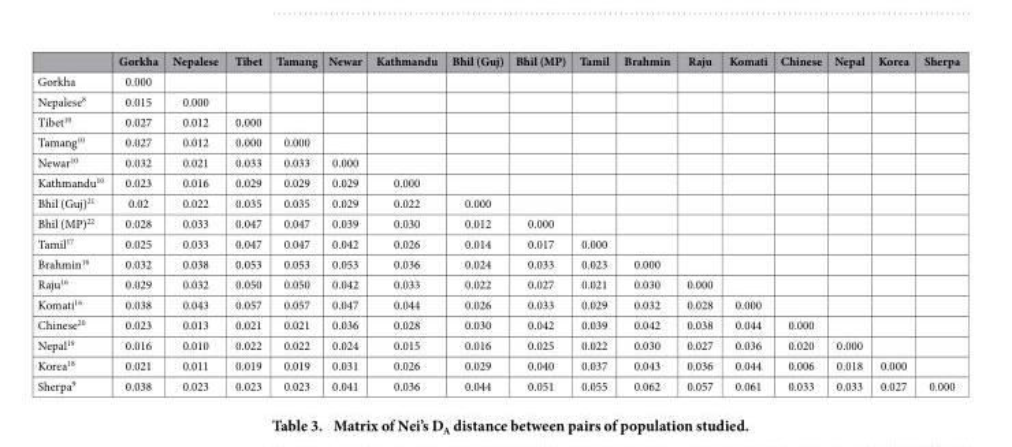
<table><thead><tr><td></td><td>Gorkha</td><td>Nepalese</td><td>Tibet</td><td>Tamang</td><td>Newar</td><td>Kathmandu</td><td>Bhil (Guj)</td><td>Bhil (MP)</td><td>Tamil</td><td>Brahmin</td><td>Raju</td><td>Komati</td><td>Chinese</td><td>Nepal</td><td>Korea</td><td>Sherpa</td></tr></thead><tbody><tr><td>Gorkha</td><td>0.000</td><td></td><td></td><td></td><td></td><td></td><td></td><td></td><td></td><td></td><td></td><td></td><td></td><td></td><td></td><td></td></tr><tr><td>Nepalese<sup>8</sup></td><td>0.015</td><td>0.000</td><td></td><td></td><td></td><td></td><td></td><td></td><td></td><td></td><td></td><td></td><td></td><td></td><td></td><td></td></tr><tr><td>Tibet<sup>10</sup></td><td>0.027</td><td>0.012</td><td>0.000</td><td></td><td></td><td></td><td></td><td></td><td></td><td></td><td></td><td></td><td></td><td></td><td></td><td></td></tr><tr><td>Tamang<sup>10</sup></td><td>0.027</td><td>0.012</td><td>0.000</td><td>0.000</td><td></td><td></td><td></td><td></td><td></td><td></td><td></td><td></td><td></td><td></td><td></td><td></td></tr><tr><td>Newar<sup>10</sup></td><td>0.032</td><td>0.021</td><td>0.033</td><td>0.033</td><td>0.000</td><td></td><td></td><td></td><td></td><td></td><td></td><td></td><td></td><td></td><td></td><td></td></tr><tr><td>Kathmandu<sup>10</sup></td><td>0.023</td><td>0.016</td><td>0.029</td><td>0.029</td><td>0.029</td><td>0.000</td><td></td><td></td><td></td><td></td><td></td><td></td><td></td><td></td><td></td><td></td></tr><tr><td>Bhil (Guj)<sup>21</sup></td><td>0.02</td><td>0.022</td><td>0.035</td><td>0.035</td><td>0.029</td><td>0.022</td><td>0.000</td><td></td><td></td><td></td><td></td><td></td><td></td><td></td><td></td><td></td></tr><tr><td>Bhil (MP)<sup>22</sup></td><td>0.028</td><td>0.033</td><td>0.047</td><td>0.047</td><td>0.039</td><td>0.030</td><td>0.012</td><td>0.000</td><td></td><td></td><td></td><td></td><td></td><td></td><td></td><td></td></tr><tr><td>Tamil<sup>17</sup></td><td>0.025</td><td>0.033</td><td>0.047</td><td>0.047</td><td>0.042</td><td>0.026</td><td>0.014</td><td>0.017</td><td>0.000</td><td></td><td></td><td></td><td></td><td></td><td></td><td></td></tr><tr><td>Brahmin<sup>16</sup></td><td>0.032</td><td>0.038</td><td>0.053</td><td>0.053</td><td>0.053</td><td>0.036</td><td>0.024</td><td>0.033</td><td>0.023</td><td>0.000</td><td></td><td></td><td></td><td></td><td></td><td></td></tr><tr><td>Raju<sup>16</sup></td><td>0.029</td><td>0.032</td><td>0.050</td><td>0.050</td><td>0.042</td><td>0.033</td><td>0.022</td><td>0.027</td><td>0.021</td><td>0.030</td><td>0.000</td><td></td><td></td><td></td><td></td><td></td></tr><tr><td>Komati<sup>16</sup></td><td>0.038</td><td>0.043</td><td>0.057</td><td>0.057</td><td>0.047</td><td>0.044</td><td>0.026</td><td>0.033</td><td>0.029</td><td>0.032</td><td>0.028</td><td>0.000</td><td></td><td></td><td></td><td></td></tr><tr><td>Chinese<sup>20</sup></td><td>0.023</td><td>0.013</td><td>0.021</td><td>0.021</td><td>0.036</td><td>0.028</td><td>0.030</td><td>0.042</td><td>0.039</td><td>0.042</td><td>0.038</td><td>0.044</td><td>0.000</td><td></td><td></td><td></td></tr><tr><td>Nepal<sup>19</sup></td><td>0.016</td><td>0.010</td><td>0.022</td><td>0.022</td><td>0.024</td><td>0.015</td><td>0.016</td><td>0.025</td><td>0.022</td><td>0.030</td><td>0.027</td><td>0.036</td><td>0.020</td><td>0.000</td><td></td><td></td></tr><tr><td>Korea<sup>18</sup></td><td>0.021</td><td>0.011</td><td>0.019</td><td>0.019</td><td>0.031</td><td>0.026</td><td>0.029</td><td>0.040</td><td>0.037</td><td>0.043</td><td>0.036</td><td>0.044</td><td>0.006</td><td>0.018</td><td>0.000</td><td></td></tr><tr><td>Sherpa<sup>9</sup></td><td>0.038</td><td>0.023</td><td>0.023</td><td>0.023</td><td>0.041</td><td>0.036</td><td>0.044</td><td>0.051</td><td>0.055</td><td>0.062</td><td>0.057</td><td>0.061</td><td>0.033</td><td>0.033</td><td>0.027</td><td>0.000</td></tr></tbody></table>